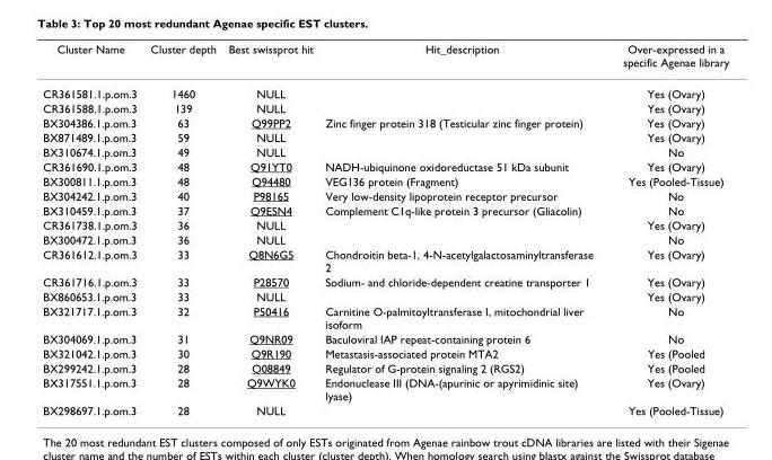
<table><thead><tr><td>Cluster Name</td><td>Cluster depth</td><td>Best swissprot hit</td><td>Hit_description</td><td>Over-expressed in a specific Agenae library</td></tr></thead><tbody><tr><td>CR361581.1.p.om.3</td><td>1460</td><td>NULL</td><td></td><td>Yes (Ovary)</td></tr><tr><td>CR361588.1.p.om.3</td><td>139</td><td>NULL</td><td></td><td>Yes (Ovary)</td></tr><tr><td>BX304386.1.p.om.3</td><td>63</td><td>Q99PP2</td><td>Zinc finger protein 318 (Testicular zinc finger protein)</td><td>Yes (Ovary)</td></tr><tr><td>BX871489.1.p.om.3</td><td>59</td><td>NULL</td><td></td><td>Yes (Ovary)</td></tr><tr><td>BX310674.1.p.om.3</td><td>49</td><td>NULL</td><td></td><td>No</td></tr><tr><td>CR361690.1.p.om.3</td><td>48</td><td>Q91YT0</td><td>NADH-ubiquinone oxidoreductase 51 kDa subunit</td><td>Yes (Ovary)</td></tr><tr><td>BX300811.1.p.om.3</td><td>48</td><td>Q94480</td><td>VEG136 protein (Fragment)</td><td>Yes (Pooled-Tissue)</td></tr><tr><td>BX304242.1.p.om.3</td><td>40</td><td>P98165</td><td>Very low-density lipoprotein receptor precursor</td><td>No</td></tr><tr><td>BX310459.1.p.om.3</td><td>37</td><td>Q9ESN4</td><td>Complement C1q-like protein 3 precursor (Gliacolin)</td><td>No</td></tr><tr><td>CR361738.1.p.om.3</td><td>36</td><td>NULL</td><td></td><td>Yes (Ovary)</td></tr><tr><td>BX300472.1.p.om.3</td><td>36</td><td>NULL</td><td></td><td>No</td></tr><tr><td>CR361612.1.p.om.3</td><td>33</td><td>Q8N6G5</td><td>Chondroitin beta-1, 4-N-acetylgalactosaminyltransferase 2</td><td>Yes (Ovary)</td></tr><tr><td>CR361716.1.p.om.3</td><td>33</td><td>P28570</td><td>Sodium- and chloride-dependent creatine transporter 1</td><td>Yes (Ovary)</td></tr><tr><td>BX860653.1.p.om.3</td><td>33</td><td>NULL</td><td></td><td>Yes (Ovary)</td></tr><tr><td>BX321717.1.p.om.3</td><td>32</td><td>P50416</td><td>Carnitine O-palmitoyltransferase I, mitochondrial liver isoform</td><td>No</td></tr><tr><td>BX304069.1.p.om.3</td><td>31</td><td>Q9NR09</td><td>Baculoviral IAP repeat-containing protein 6</td><td>No</td></tr><tr><td>BX321042.1.p.om.3</td><td>30</td><td>Q9R190</td><td>Metastasis-associated protein MTA2</td><td>Yes (Pooled</td></tr><tr><td>BX299242.1.p.om.3</td><td>28</td><td>O08849</td><td>Regulator of G-protein signaling 2 (RGS2)</td><td>Yes (Pooled</td></tr><tr><td>BX317551.1.p.om.3</td><td>28</td><td>Q9WYK0</td><td>Endonuclease III (DNA-(apurinic or apyrimidinic site) lyase)</td><td>Yes (Ovary)</td></tr><tr><td>BX298697.1.p.om.3</td><td>28</td><td>NULL</td><td></td><td>Yes (Pooled-Tissue)</td></tr></tbody></table>